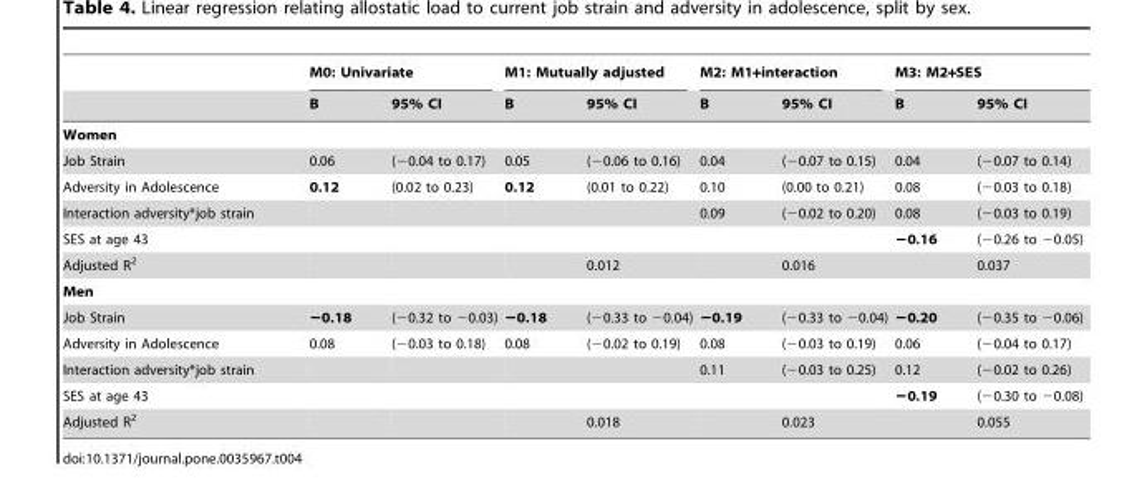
<table><thead><tr><td rowspan="2"></td><td colspan="2">M0: Univariate</td><td colspan="2">M1: Mutually adjusted</td><td colspan="2">M2: M1+interaction</td><td colspan="2">M3: M2+SES</td></tr><tr><td>B</td><td>95% CI</td><td>B</td><td>95% CI</td><td>B</td><td>95% CI</td><td>B</td><td>95% CI</td></tr></thead><tbody><tr><td colspan="9">Women</td></tr><tr><td>Job Strain</td><td>0.06</td><td>(−0.04 to 0.17)</td><td>0.05</td><td>(−0.06 to 0.16)</td><td>0.04</td><td>(−0.07 to 0.15)</td><td>0.04</td><td>(−0.07 to 0.14)</td></tr><tr><td>Adversity in Adolescence</td><td>0.12</td><td>(0.02 to 0.23)</td><td>0.12</td><td>(0.01 to 0.22)</td><td>0.10</td><td>(0.00 to 0.21)</td><td>0.08</td><td>(−0.03 to 0.18)</td></tr><tr><td>Interaction adversity*job strain</td><td></td><td></td><td></td><td></td><td>0.09</td><td>(−0.02 to 0.20)</td><td>0.08</td><td>(−0.03 to 0.19)</td></tr><tr><td>SES at age 43</td><td></td><td></td><td></td><td></td><td></td><td></td><td>−0.16</td><td>(−0.26 to −0.05)</td></tr><tr><td>Adjusted R<sup>2</sup></td><td></td><td></td><td></td><td>0.012</td><td></td><td>0.016</td><td></td><td>0.037</td></tr><tr><td colspan="9">Men</td></tr><tr><td>Job Strain</td><td>−0.18</td><td>(−0.32 to −0.03)</td><td>−0.18</td><td>(−0.33 to −0.04)</td><td>−0.19</td><td>(−0.33 to −0.04)</td><td>−0.20</td><td>(−0.35 to −0.06)</td></tr><tr><td>Adversity in Adolescence</td><td>0.08</td><td>(−0.03 to 0.18)</td><td>0.08</td><td>(−0.02 to 0.19)</td><td>0.08</td><td>(−0.03 to 0.19)</td><td>0.06</td><td>(−0.04 to 0.17)</td></tr><tr><td>Interaction adversity*job strain</td><td></td><td></td><td></td><td></td><td>0.11</td><td>(−0.03 to 0.25)</td><td>0.12</td><td>(−0.02 to 0.26)</td></tr><tr><td>SES at age 43</td><td></td><td></td><td></td><td></td><td></td><td></td><td>−0.19</td><td>(−0.30 to −0.08)</td></tr><tr><td>Adjusted R<sup>2</sup></td><td></td><td></td><td></td><td>0.018</td><td></td><td>0.023</td><td></td><td>0.055</td></tr></tbody></table>